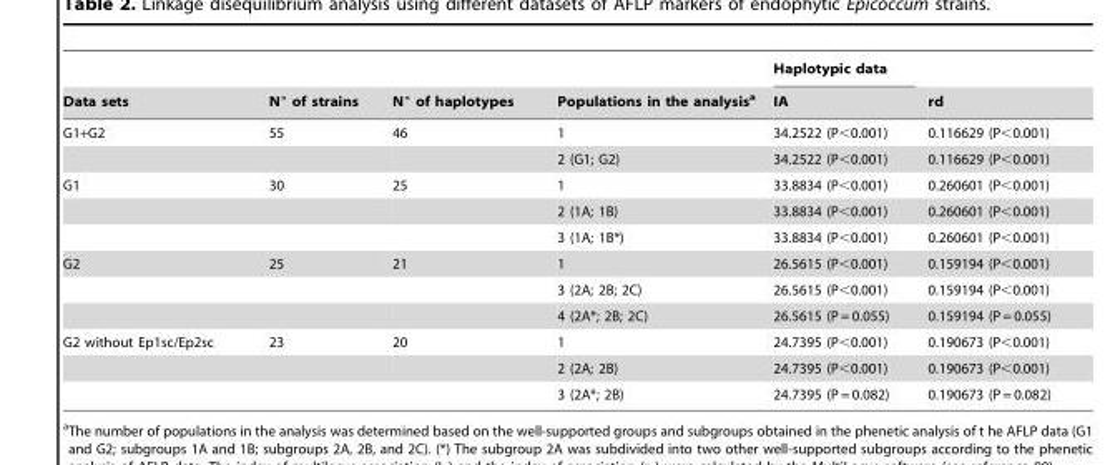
<table><thead><tr><td rowspan="2">Data sets</td><td rowspan="2">N° of strains</td><td rowspan="2">N° of haplotypes</td><td rowspan="2">Populations in the analysis<sup>a</sup></td><td rowspan="2">Haplotypic data IA</td><td rowspan="2">rd</td></tr><tr></tr></thead><tbody><tr><td rowspan="2">G1+G2</td><td>55</td><td>46</td><td>1</td><td>34.2522 (P&lt;0.001)</td><td>0.116629 (P&lt;0.001)</td></tr><tr><td></td><td></td><td>2 (G1; G2)</td><td>34.2522 (P&lt;0.001)</td><td>0.116629 (P&lt;0.001)</td></tr><tr><td rowspan="3">G1</td><td>30</td><td>25</td><td>1</td><td>33.8834 (P&lt;0.001)</td><td>0.260601 (P&lt;0.001)</td></tr><tr><td></td><td></td><td>2 (1A; 1B)</td><td>33.8834 (P&lt;0.001)</td><td>0.260601 (P&lt;0.001)</td></tr><tr><td></td><td></td><td>3 (1A; 1B*)</td><td>33.8834 (P&lt;0.001)</td><td>0.260601 (P&lt;0.001)</td></tr><tr><td rowspan="3">G2</td><td>25</td><td>21</td><td>1</td><td>26.5615 (P&lt;0.001)</td><td>0.159194 (P&lt;0.001)</td></tr><tr><td></td><td></td><td>3 (2A; 2B; 2C)</td><td>26.5615 (P&lt;0.001)</td><td>0.159194 (P&lt;0.001)</td></tr><tr><td></td><td></td><td>4 (2A*; 2B; 2C)</td><td>26.5615 (P = 0.055)</td><td>0.159194 (P = 0.055)</td></tr><tr><td rowspan="3">G2 without Ep1sc/Ep2sc</td><td>23</td><td>20</td><td>1</td><td>24.7395 (P&lt;0.001)</td><td>0.190673 (P&lt;0.001)</td></tr><tr><td></td><td></td><td>2 (2A; 2B)</td><td>24.7395 (P&lt;0.001)</td><td>0.190673 (P&lt;0.001)</td></tr><tr><td></td><td></td><td>3 (2A*; 2B)</td><td>24.7395 (P = 0.082)</td><td>0.190673 (P = 0.082)</td></tr></tbody></table>